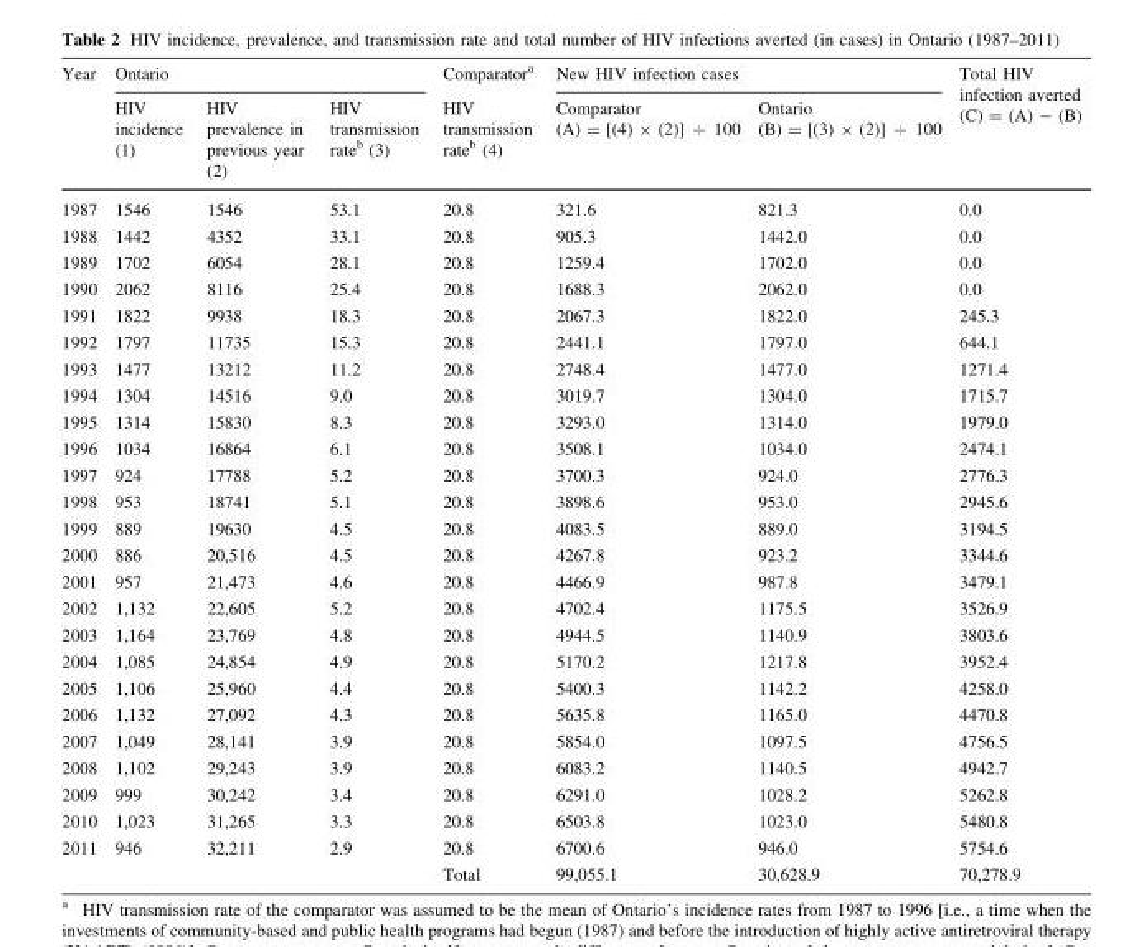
<table><thead><tr><td rowspan="2">Year</td><td colspan="3">Ontario</td><td rowspan="2">Comparator<sup>a</sup> HIV transmission rate<sup>b</sup> (4)</td><td colspan="2">New HIV infection cases</td><td rowspan="2">Total HIV infection averted (C) = (A) - (B)</td></tr><tr><td>HIV incidence (1)</td><td>HIV prevalence in previous year (2)</td><td>HIV transmission rate<sup>b</sup> (3)</td><td>Comparator (A) = [(4) × (2)] ÷ 100</td><td>Ontario (B) = [(3) × (2)] ÷ 100</td></tr></thead><tbody><tr><td>1987</td><td>1546</td><td>1546</td><td>53.1</td><td>20.8</td><td>321.6</td><td>821.3</td><td>0.0</td></tr><tr><td>1988</td><td>1442</td><td>4352</td><td>33.1</td><td>20.8</td><td>905.3</td><td>1442.0</td><td>0.0</td></tr><tr><td>1989</td><td>1702</td><td>6054</td><td>28.1</td><td>20.8</td><td>1259.4</td><td>1702.0</td><td>0.0</td></tr><tr><td>1990</td><td>2062</td><td>8116</td><td>25.4</td><td>20.8</td><td>1688.3</td><td>2062.0</td><td>0.0</td></tr><tr><td>1991</td><td>1822</td><td>9938</td><td>18.3</td><td>20.8</td><td>2067.3</td><td>1822.0</td><td>245.3</td></tr><tr><td>1992</td><td>1797</td><td>11735</td><td>15.3</td><td>20.8</td><td>2441.1</td><td>1797.0</td><td>644.1</td></tr><tr><td>1993</td><td>1477</td><td>13212</td><td>11.2</td><td>20.8</td><td>2748.4</td><td>1477.0</td><td>1271.4</td></tr><tr><td>1994</td><td>1304</td><td>14516</td><td>9.0</td><td>20.8</td><td>3019.7</td><td>1304.0</td><td>1715.7</td></tr><tr><td>1995</td><td>1314</td><td>15830</td><td>8.3</td><td>20.8</td><td>3293.0</td><td>1314.0</td><td>1979.0</td></tr><tr><td>1996</td><td>1034</td><td>16864</td><td>6.1</td><td>20.8</td><td>3508.1</td><td>1034.0</td><td>2474.1</td></tr><tr><td>1997</td><td>924</td><td>17788</td><td>5.2</td><td>20.8</td><td>3700.3</td><td>924.0</td><td>2776.3</td></tr><tr><td>1998</td><td>953</td><td>18741</td><td>5.1</td><td>20.8</td><td>3898.6</td><td>953.0</td><td>2945.6</td></tr><tr><td>1999</td><td>889</td><td>19630</td><td>4.5</td><td>20.8</td><td>4083.5</td><td>889.0</td><td>3194.5</td></tr><tr><td>2000</td><td>886</td><td>20,516</td><td>4.5</td><td>20.8</td><td>4267.8</td><td>923.2</td><td>3344.6</td></tr><tr><td>2001</td><td>957</td><td>21,473</td><td>4.6</td><td>20.8</td><td>4466.9</td><td>987.8</td><td>3479.1</td></tr><tr><td>2002</td><td>1,132</td><td>22,605</td><td>5.2</td><td>20.8</td><td>4702.4</td><td>1175.5</td><td>3526.9</td></tr><tr><td>2003</td><td>1,164</td><td>23,769</td><td>4.8</td><td>20.8</td><td>4944.5</td><td>1140.9</td><td>3803.6</td></tr><tr><td>2004</td><td>1,085</td><td>24,854</td><td>4.9</td><td>20.8</td><td>5170.2</td><td>1217.8</td><td>3952.4</td></tr><tr><td>2005</td><td>1,106</td><td>25,960</td><td>4.4</td><td>20.8</td><td>5400.3</td><td>1142.2</td><td>4258.0</td></tr><tr><td>2006</td><td>1,132</td><td>27,092</td><td>4.3</td><td>20.8</td><td>5635.8</td><td>1165.0</td><td>4470.8</td></tr><tr><td>2007</td><td>1,049</td><td>28,141</td><td>3.9</td><td>20.8</td><td>5854.0</td><td>1097.5</td><td>4756.5</td></tr><tr><td>2008</td><td>1,102</td><td>29,243</td><td>3.9</td><td>20.8</td><td>6083.2</td><td>1140.5</td><td>4942.7</td></tr><tr><td>2009</td><td>999</td><td>30,242</td><td>3.4</td><td>20.8</td><td>6291.0</td><td>1028.2</td><td>5262.8</td></tr><tr><td>2010</td><td>1,023</td><td>31,265</td><td>3.3</td><td>20.8</td><td>6503.8</td><td>1023.0</td><td>5480.8</td></tr><tr><td rowspan="2">2011</td><td>946</td><td>32,211</td><td>2.9</td><td>20.8</td><td>6700.6</td><td>946.0</td><td>5754.6</td></tr><tr><td></td><td></td><td></td><td>Total</td><td>99,055.1</td><td>30,628.9</td><td>70,278.9</td></tr></tbody></table>